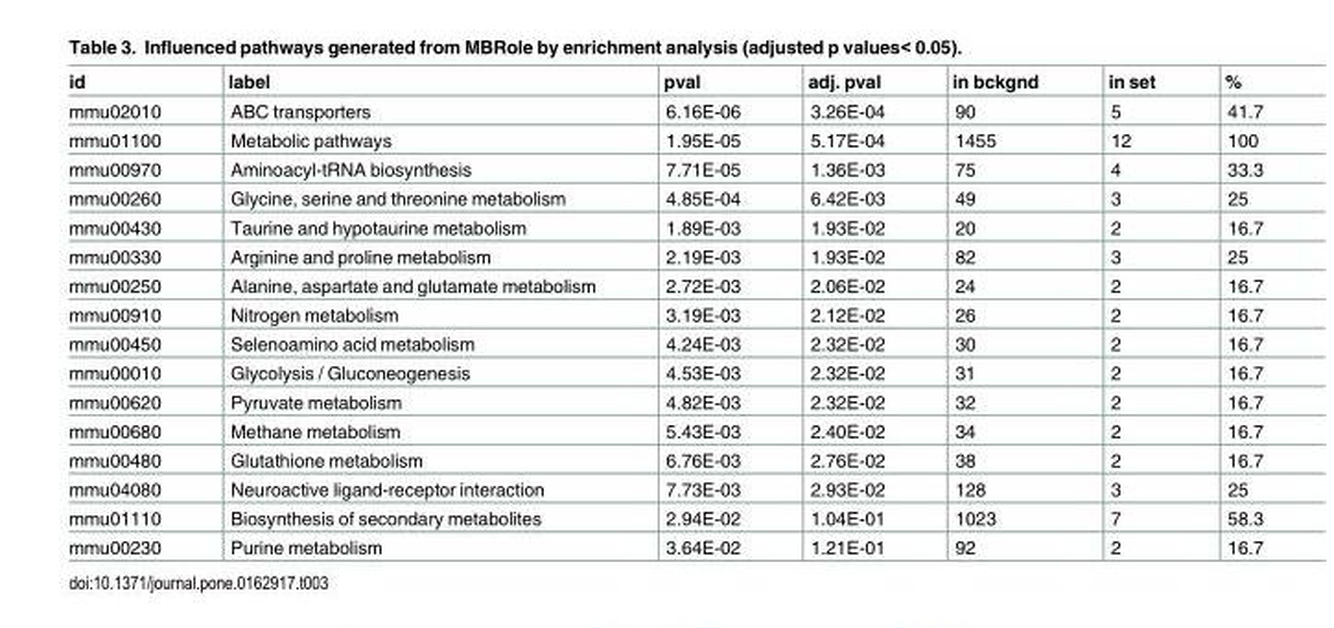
<table><thead><tr><td>id</td><td>label</td><td>pval</td><td>adj. pval</td><td>in bckgnd</td><td>in set</td><td>%</td></tr></thead><tbody><tr><td>mmu02010</td><td>ABC transporters</td><td>6.16E-06</td><td>3.26E-04</td><td>90</td><td>5</td><td>41.7</td></tr><tr><td>mmu01100</td><td>Metabolic pathways</td><td>1.95E-05</td><td>5.17E-04</td><td>1455</td><td>12</td><td>100</td></tr><tr><td>mmu00970</td><td>Aminoacyl-tRNA biosynthesis</td><td>7.71E-05</td><td>1.36E-03</td><td>75</td><td>4</td><td>33.3</td></tr><tr><td>mmu00260</td><td>Glycine, serine and threonine metabolism</td><td>4.85E-04</td><td>6.42E-03</td><td>49</td><td>3</td><td>25</td></tr><tr><td>mmu00430</td><td>Taurine and hypotaurine metabolism</td><td>1.89E-03</td><td>1.93E-02</td><td>20</td><td>2</td><td>16.7</td></tr><tr><td>mmu00330</td><td>Arginine and proline metabolism</td><td>2.19E-03</td><td>1.93E-02</td><td>82</td><td>3</td><td>25</td></tr><tr><td>mmu00250</td><td>Alanine, aspartate and glutamate metabolism</td><td>2.72E-03</td><td>2.06E-02</td><td>24</td><td>2</td><td>16.7</td></tr><tr><td>mmu00910</td><td>Nitrogen metabolism</td><td>3.19E-03</td><td>2.12E-02</td><td>26</td><td>2</td><td>16.7</td></tr><tr><td>mmu00450</td><td>Selenoamino acid metabolism</td><td>4.24E-03</td><td>2.32E-02</td><td>30</td><td>2</td><td>16.7</td></tr><tr><td>mmu00010</td><td>Glycolysis / Gluconeogenesis</td><td>4.53E-03</td><td>2.32E-02</td><td>31</td><td>2</td><td>16.7</td></tr><tr><td>mmu00620</td><td>Pyruvate metabolism</td><td>4.82E-03</td><td>2.32E-02</td><td>32</td><td>2</td><td>16.7</td></tr><tr><td>mmu00680</td><td>Methane metabolism</td><td>5.43E-03</td><td>2.40E-02</td><td>34</td><td>2</td><td>16.7</td></tr><tr><td>mmu00480</td><td>Glutathione metabolism</td><td>6.76E-03</td><td>2.76E-02</td><td>38</td><td>2</td><td>16.7</td></tr><tr><td>mmu04080</td><td>Neuroactive ligand-receptor interaction</td><td>7.73E-03</td><td>2.93E-02</td><td>128</td><td>3</td><td>25</td></tr><tr><td>mmu01110</td><td>Biosynthesis of secondary metabolites</td><td>2.94E-02</td><td>1.04E-01</td><td>1023</td><td>7</td><td>58.3</td></tr><tr><td>mmu00230</td><td>Purine metabolism</td><td>3.64E-02</td><td>1.21E-01</td><td>92</td><td>2</td><td>16.7</td></tr></tbody></table>